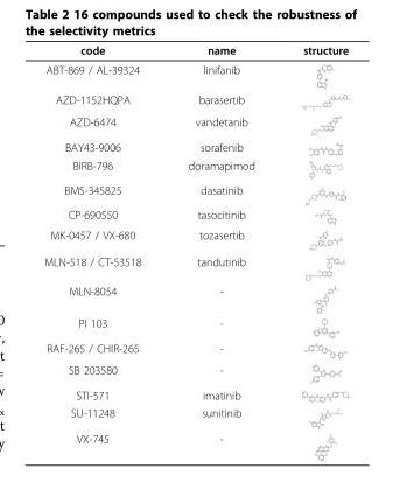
<table><thead><tr><td>code</td><td>name</td><td>structure</td></tr></thead><tbody><tr><td>ABT-869 / AL-39324</td><td>linifanib</td><td></td></tr><tr><td>AZD-1152HQPA</td><td>barasertib</td><td></td></tr><tr><td>AZD-6474</td><td>vandetanib</td><td></td></tr><tr><td>BAY43-9006</td><td>sorafenib</td><td></td></tr><tr><td>BIRB-796</td><td>doramapimod</td><td></td></tr><tr><td>BMS-345825</td><td>dasatinib</td><td></td></tr><tr><td>CP-690550</td><td>tasocitinib</td><td></td></tr><tr><td>MK-0457 / VX-680</td><td>tozasertib</td><td></td></tr><tr><td>MLN-518 / CT-53518</td><td>tandutinib</td><td></td></tr><tr><td>MLN-8054</td><td>-</td><td></td></tr><tr><td>PI 103</td><td>-</td><td></td></tr><tr><td>RAF-265 / CHIR-265</td><td>-</td><td></td></tr><tr><td>SB 203580</td><td>-</td><td></td></tr><tr><td>STI-571</td><td>imatinib</td><td></td></tr><tr><td>SU-11248</td><td>sunitinib</td><td></td></tr><tr><td>VX-745</td><td>-</td><td></td></tr></tbody></table>